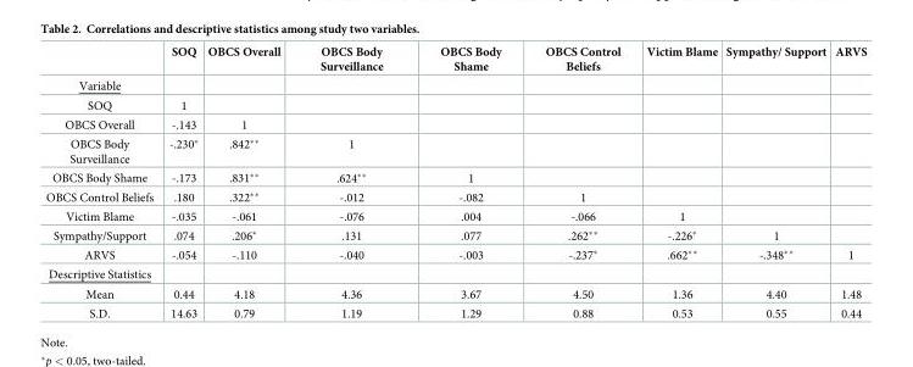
<table><thead><tr><td></td><td>SOQ</td><td>OBCS Overall</td><td>OBCS Body Surveillance</td><td>OBCS Body Shame</td><td>OBCS Control Beliefs</td><td>Victim Blame</td><td>Sympathy/ Support</td><td>ARVS</td></tr></thead><tbody><tr><td colspan="9">Variable</td></tr><tr><td>SOQ</td><td>1</td><td></td><td></td><td></td><td></td><td></td><td></td><td></td></tr><tr><td>OBCS Overall</td><td>-.143</td><td>1</td><td></td><td></td><td></td><td></td><td></td><td></td></tr><tr><td>OBCS Body Surveillance</td><td>-.230*</td><td>.842**</td><td>1</td><td></td><td></td><td></td><td></td><td></td></tr><tr><td>OBCS Body Shame</td><td>-.173</td><td>.831**</td><td>.624**</td><td>1</td><td></td><td></td><td></td><td></td></tr><tr><td>OBCS Control Beliefs</td><td>.180</td><td>.322**</td><td>-.012</td><td>-.082</td><td>1</td><td></td><td></td><td></td></tr><tr><td>Victim Blame</td><td>-.035</td><td>-.061</td><td>-.076</td><td>.004</td><td>-.066</td><td>1</td><td></td><td></td></tr><tr><td>Sympathy/Support</td><td>.074</td><td>.206*</td><td>.131</td><td>.077</td><td>.262**</td><td>-.226*</td><td>1</td><td></td></tr><tr><td>ARVS</td><td>-.054</td><td>-.110</td><td>-.040</td><td>-.003</td><td>-.237*</td><td>.662**</td><td>-.348**</td><td>1</td></tr><tr><td colspan="9">Descriptive Statistics</td></tr><tr><td>Mean</td><td>0.44</td><td>4.18</td><td>4.36</td><td>3.67</td><td>4.50</td><td>1.36</td><td>4.40</td><td>1.48</td></tr><tr><td>S.D.</td><td>14.63</td><td>0.79</td><td>1.19</td><td>1.29</td><td>0.88</td><td>0.53</td><td>0.55</td><td>0.44</td></tr></tbody></table>